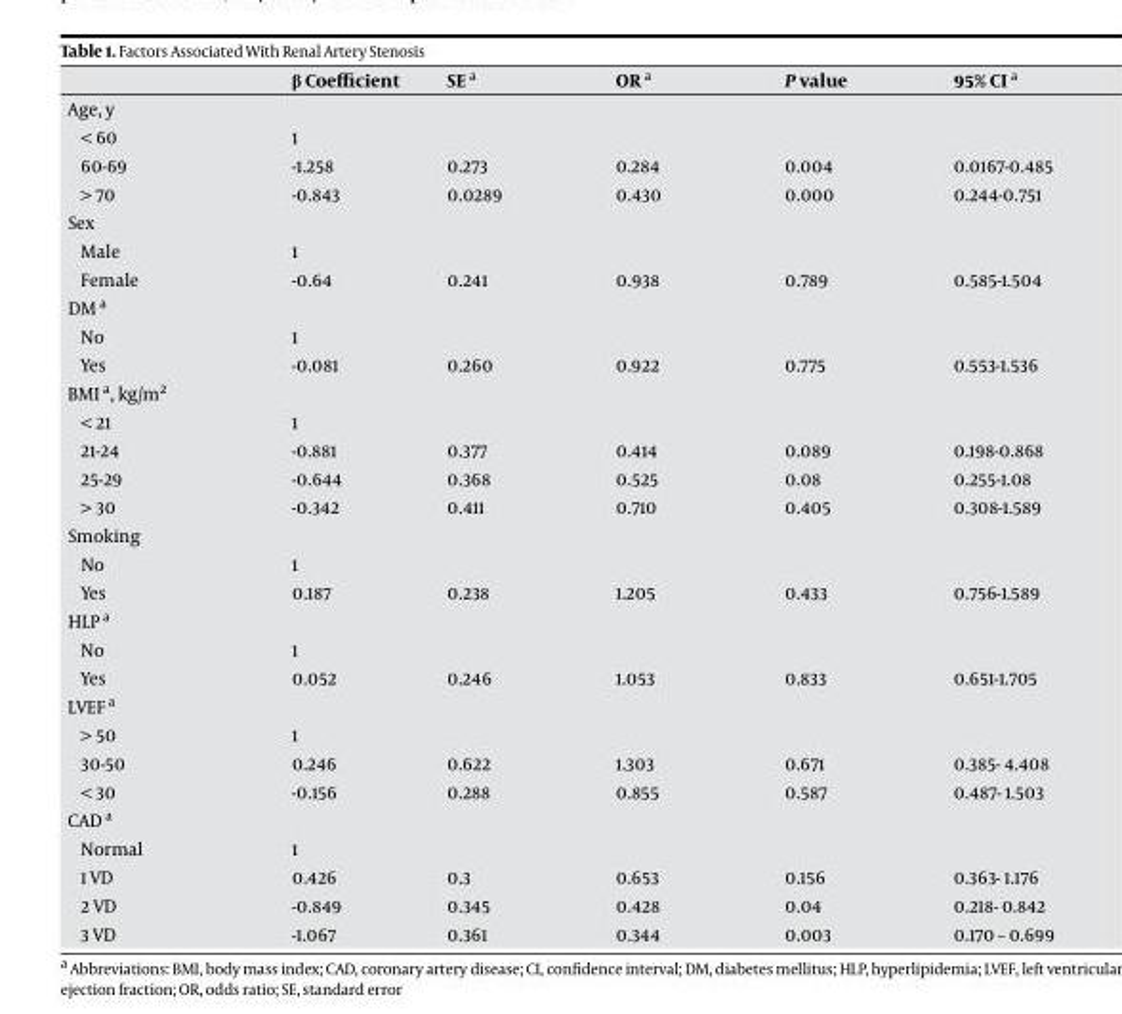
<table><thead><tr><td></td><td>β Coefficient</td><td>SE a</td><td>OR a</td><td>P value</td><td>95% CI a</td></tr></thead><tbody><tr><td colspan="6">Age, y</td></tr><tr><td>&lt; 60</td><td>1</td><td></td><td></td><td></td><td></td></tr><tr><td>60-69</td><td>-1.258</td><td>0.273</td><td>0.284</td><td>0.004</td><td>0.0167-0.485</td></tr><tr><td>&gt; 70</td><td>-0.843</td><td>0.0289</td><td>0.430</td><td>0.000</td><td>0.244-0.751</td></tr><tr><td colspan="6">Sex</td></tr><tr><td>Male</td><td>1</td><td></td><td></td><td></td><td></td></tr><tr><td>Female</td><td>-0.64</td><td>0.241</td><td>0.938</td><td>0.789</td><td>0.585-1.504</td></tr><tr><td colspan="6">DM a</td></tr><tr><td>No</td><td>1</td><td></td><td></td><td></td><td></td></tr><tr><td>Yes</td><td>-0.081</td><td>0.260</td><td>0.922</td><td>0.775</td><td>0.553-1.536</td></tr><tr><td colspan="6">BMI a, kg/m<sup>2</sup></td></tr><tr><td>&lt; 21</td><td>1</td><td></td><td></td><td></td><td></td></tr><tr><td>21-24</td><td>-0.881</td><td>0.377</td><td>0.414</td><td>0.089</td><td>0.198-0.868</td></tr><tr><td>25-29</td><td>-0.644</td><td>0.368</td><td>0.525</td><td>0.08</td><td>0.255-1.08</td></tr><tr><td>&gt; 30</td><td>-0.342</td><td>0.411</td><td>0.710</td><td>0.405</td><td>0.308-1.589</td></tr><tr><td colspan="6">Smoking</td></tr><tr><td>No</td><td>1</td><td></td><td></td><td></td><td></td></tr><tr><td>Yes</td><td>0.187</td><td>0.238</td><td>1.205</td><td>0.433</td><td>0.756-1.589</td></tr><tr><td colspan="6">HLP a</td></tr><tr><td>No</td><td>1</td><td></td><td></td><td></td><td></td></tr><tr><td>Yes</td><td>0.052</td><td>0.246</td><td>1.053</td><td>0.833</td><td>0.651-1.705</td></tr><tr><td colspan="6">LVEF a</td></tr><tr><td>&gt; 50</td><td>1</td><td></td><td></td><td></td><td></td></tr><tr><td>30-50</td><td>0.246</td><td>0.622</td><td>1.303</td><td>0.671</td><td>0.385- 4.408</td></tr><tr><td>&lt; 30</td><td>-0.156</td><td>0.288</td><td>0.855</td><td>0.587</td><td>0.487- 1.503</td></tr><tr><td colspan="6">CAD a</td></tr><tr><td>Normal</td><td>1</td><td></td><td></td><td></td><td></td></tr><tr><td>1 VD</td><td>0.426</td><td>0.3</td><td>0.653</td><td>0.156</td><td>0.363- 1.176</td></tr><tr><td>2 VD</td><td>-0.849</td><td>0.345</td><td>0.428</td><td>0.04</td><td>0.218- 0.842</td></tr><tr><td>3 VD</td><td>-1.067</td><td>0.361</td><td>0.344</td><td>0.003</td><td>0.170 – 0.699</td></tr></tbody></table>